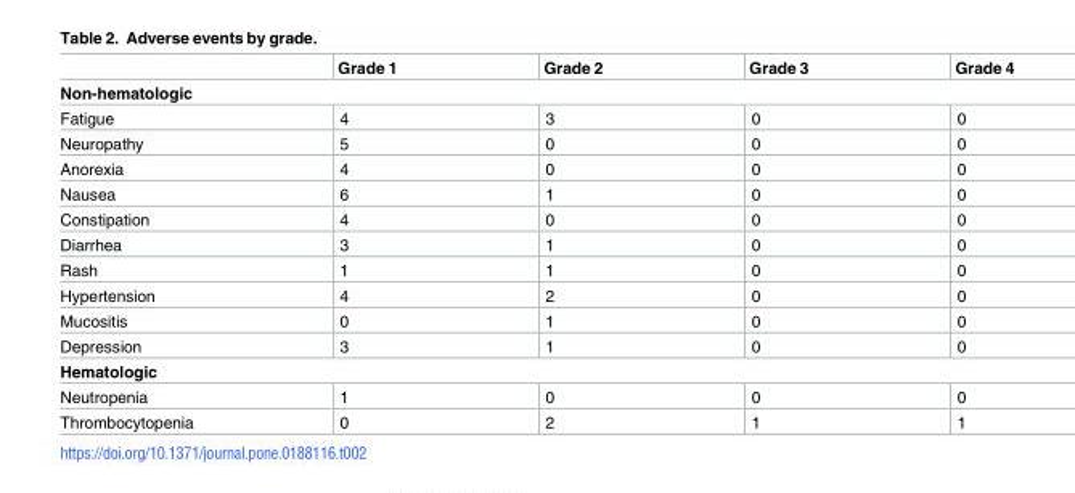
<table><thead><tr><td></td><td>Grade 1</td><td>Grade 2</td><td>Grade 3</td><td>Grade 4</td></tr></thead><tbody><tr><td colspan="5">Non-hematologic</td></tr><tr><td>Fatigue</td><td>4</td><td>3</td><td>0</td><td>0</td></tr><tr><td>Neuropathy</td><td>5</td><td>0</td><td>0</td><td>0</td></tr><tr><td>Anorexia</td><td>4</td><td>0</td><td>0</td><td>0</td></tr><tr><td>Nausea</td><td>6</td><td>1</td><td>0</td><td>0</td></tr><tr><td>Constipation</td><td>4</td><td>0</td><td>0</td><td>0</td></tr><tr><td>Diarrhea</td><td>3</td><td>1</td><td>0</td><td>0</td></tr><tr><td>Rash</td><td>1</td><td>1</td><td>0</td><td>0</td></tr><tr><td>Hypertension</td><td>4</td><td>2</td><td>0</td><td>0</td></tr><tr><td>Mucositis</td><td>0</td><td>1</td><td>0</td><td>0</td></tr><tr><td>Depression</td><td>3</td><td>1</td><td>0</td><td>0</td></tr><tr><td colspan="5">Hematologic</td></tr><tr><td>Neutropenia</td><td>1</td><td>0</td><td>0</td><td>0</td></tr><tr><td>Thrombocytopenia</td><td>0</td><td>2</td><td>1</td><td>1</td></tr></tbody></table>